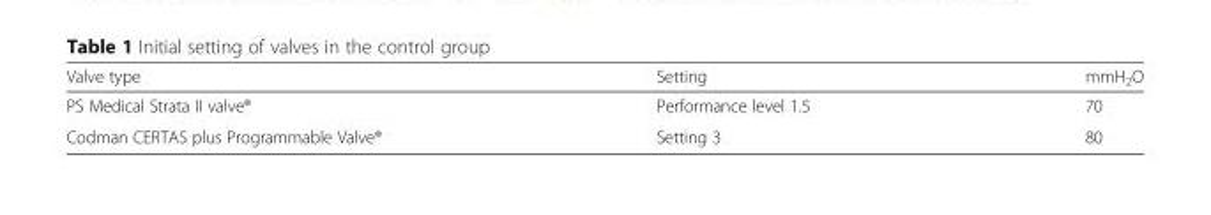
<table><thead><tr><td>Valve type</td><td>Setting</td><td>mmH<sub>2</sub>O</td></tr></thead><tbody><tr><td>PS Medical Strata II valve®</td><td>Performance level 1.5</td><td>70</td></tr><tr><td>Codman CERTAS plus Programmable Valve®</td><td>Setting 3</td><td>80</td></tr></tbody></table>